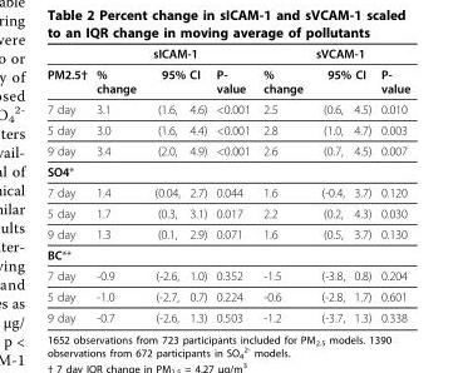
<table><thead><tr><td rowspan="3">PM2.5† 7 day</td><td colspan="4">sICAM-1</td><td colspan="4">sVCAM-1</td></tr><tr><td rowspan="2">% change 3.1</td><td colspan="2">95% CI</td><td rowspan="2">P- value &lt;0.001</td><td rowspan="2">% change 2.5</td><td colspan="2">95% CI</td><td rowspan="2">P- value 0.010</td></tr><tr><td>(1.6,</td><td>4.6)</td><td>(0.6,</td><td>4.5)</td></tr></thead><tbody><tr><td>5 day</td><td>3.0</td><td>(1.6,</td><td>4.4)</td><td>&lt;0.001</td><td>2.8</td><td>(1.0,</td><td>4.7)</td><td>0.003</td></tr><tr><td>9 day</td><td>3.4</td><td>(2.0,</td><td>4.9)</td><td>&lt;0.001</td><td>2.6</td><td>(0.7,</td><td>4.5)</td><td>0.007</td></tr><tr><td colspan="9">SO4*</td></tr><tr><td>7 day</td><td>1.4</td><td>(0.04,</td><td>2.7)</td><td>0.044</td><td>1.6</td><td>(-0.4,</td><td>3.7)</td><td>0.120</td></tr><tr><td>5 day</td><td>1.7</td><td>(0.3,</td><td>3.1)</td><td>0.017</td><td>2.2</td><td>(0.2,</td><td>4.3)</td><td>0.030</td></tr><tr><td>9 day</td><td>1.3</td><td>(0.1,</td><td>2.9)</td><td>0.071</td><td>1.6</td><td>(0.5,</td><td>3.7)</td><td>0.130</td></tr><tr><td colspan="9">BC**</td></tr><tr><td>7 day</td><td>-0.9</td><td>(-2.6,</td><td>1.0)</td><td>0.352</td><td>-1.5</td><td>(-3.8,</td><td>0.8)</td><td>0.204</td></tr><tr><td>5 day</td><td>-1.0</td><td>(-2.7,</td><td>0.7)</td><td>0.224</td><td>-0.6</td><td>(-2.8,</td><td>1.7)</td><td>0.601</td></tr><tr><td>9 day</td><td>-0.7</td><td>(-2.6,</td><td>1.3)</td><td>0.503</td><td>-1.2</td><td>(-3.7,</td><td>1.3)</td><td>0.338</td></tr></tbody></table>